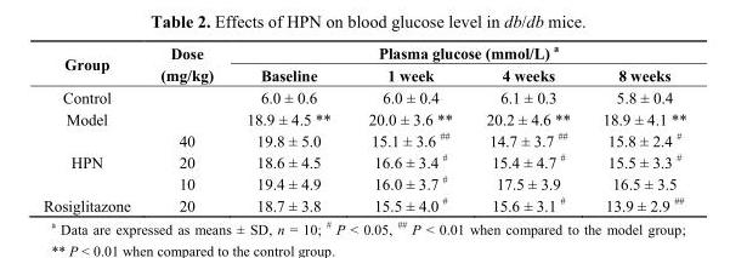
<table><thead><tr><td rowspan="2">Group</td><td rowspan="2">Dose (mg/kg)</td><td colspan="4">Plasma glucose (mmol/L) <sup>a</sup></td></tr><tr><td>Baseline</td><td>1 week</td><td>4 weeks</td><td>8 weeks</td></tr></thead><tbody><tr><td>Control</td><td></td><td>6.0 ± 0.6</td><td>6.0 ± 0.4</td><td>6.1 ± 0.3</td><td>5.8 ± 0.4</td></tr><tr><td>Model</td><td></td><td>18.9 ± 4.5 **</td><td>20.0 ± 3.6 **</td><td>20.2 ± 4.6 **</td><td>18.9 ± 4.1 **</td></tr><tr><td rowspan="3">HPN</td><td>40</td><td>19.8 ± 5.0</td><td>15.1 ± 3.6 <sup>##</sup></td><td>14.7 ± 3.7 <sup>##</sup></td><td>15.8 ± 2.4 <sup>#</sup></td></tr><tr><td>20</td><td>18.6 ± 4.5</td><td>16.6 ± 3.4 <sup>#</sup></td><td>15.4 ± 4.7 <sup>#</sup></td><td>15.5 ± 3.3 <sup>#</sup></td></tr><tr><td>10</td><td>19.4 ± 4.9</td><td>16.0 ± 3.7 <sup>#</sup></td><td>17.5 ± 3.9</td><td>16.5 ± 3.5</td></tr><tr><td>Rosiglitazone</td><td>20</td><td>18.7 ± 3.8</td><td>15.5 ± 4.0 <sup>#</sup></td><td>15.6 ± 3.1 <sup>#</sup></td><td>13.9 ± 2.9 <sup>##</sup></td></tr></tbody></table>